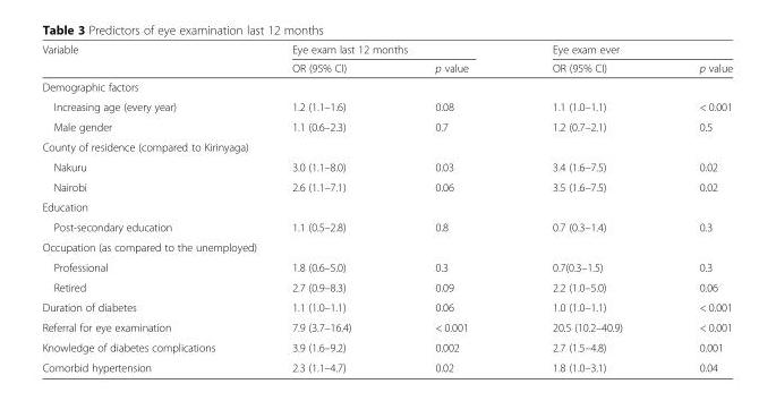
<table><thead><tr><td rowspan="2">Variable</td><td colspan="2">Eye exam last 12 months</td><td colspan="2">Eye exam ever</td></tr><tr><td>OR (95% CI)</td><td>p value</td><td>OR (95% CI)</td><td>p value</td></tr></thead><tbody><tr><td colspan="5">Demographic factors</td></tr><tr><td>Increasing age (every year)</td><td>1.2 (1.1–1.6)</td><td>0.08</td><td>1.1 (1.0–1.1)</td><td>&lt; 0.001</td></tr><tr><td>Male gender</td><td>1.1 (0.6–2.3)</td><td>0.7</td><td>1.2 (0.7–2.1)</td><td>0.5</td></tr><tr><td colspan="5">County of residence (compared to Kirinyaga)</td></tr><tr><td>Nakuru</td><td>3.0 (1.1–8.0)</td><td>0.03</td><td>3.4 (1.6–7.5)</td><td>0.02</td></tr><tr><td>Nairobi</td><td>2.6 (1.1–7.1)</td><td>0.06</td><td>3.5 (1.6–7.5)</td><td>0.02</td></tr><tr><td colspan="5">Education</td></tr><tr><td>Post-secondary education</td><td>1.1 (0.5–2.8)</td><td>0.8</td><td>0.7 (0.3–1.4)</td><td>0.3</td></tr><tr><td colspan="5">Occupation (as compared to the unemployed)</td></tr><tr><td>Professional</td><td>1.8 (0.6–5.0)</td><td>0.3</td><td>0.7(0.3–1.5)</td><td>0.3</td></tr><tr><td>Retired</td><td>2.7 (0.9–8.3)</td><td>0.09</td><td>2.2 (1.0–5.0)</td><td>0.06</td></tr><tr><td>Duration of diabetes</td><td>1.1 (1.0–1.1)</td><td>0.06</td><td>1.0 (1.0–1.1)</td><td>&lt; 0.001</td></tr><tr><td>Referral for eye examination</td><td>7.9 (3.7–16.4)</td><td>&lt; 0.001</td><td>20.5 (10.2–40.9)</td><td>&lt; 0.001</td></tr><tr><td>Knowledge of diabetes complications</td><td>3.9 (1.6–9.2)</td><td>0.002</td><td>2.7 (1.5–4.8)</td><td>0.001</td></tr><tr><td>Comorbid hypertension</td><td>2.3 (1.1–4.7)</td><td>0.02</td><td>1.8 (1.0–3.1)</td><td>0.04</td></tr></tbody></table>